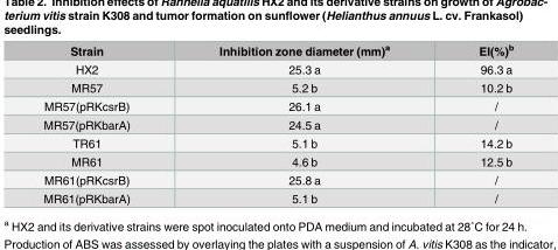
<table><thead><tr><td>Strain</td><td>Inhibition zone diameter (mm)<sup>a</sup></td><td>EI(%)<sup>b</sup></td></tr></thead><tbody><tr><td>HX2</td><td>25.3 a</td><td>96.3 a</td></tr><tr><td>MR57</td><td>5.2 b</td><td>10.2 b</td></tr><tr><td>MR57(pRKcsrB)</td><td>26.1 a</td><td>/</td></tr><tr><td>MR57(pRKbarA)</td><td>24.5 a</td><td>/</td></tr><tr><td>TR61</td><td>5.1 b</td><td>14.2 b</td></tr><tr><td>MR61</td><td>4.6 b</td><td>12.5 b</td></tr><tr><td>MR61(pRKcsrB)</td><td>25.8 a</td><td>/</td></tr><tr><td>MR61(pRKbarA)</td><td>5.1 b</td><td>/</td></tr></tbody></table>